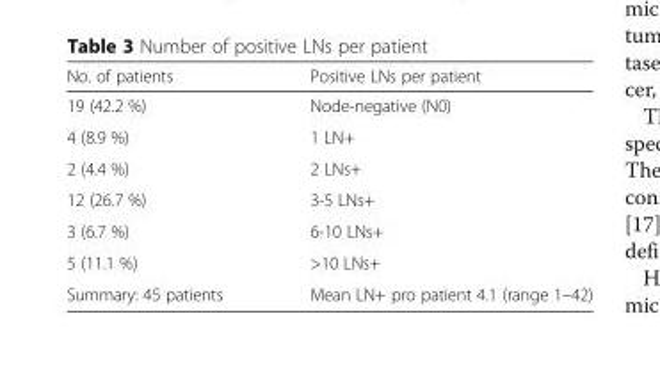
<table><thead><tr><td>No. of patients</td><td>Positive LNs per patient</td></tr></thead><tbody><tr><td>19 (42.2 %)</td><td>Node-negative (N0)</td></tr><tr><td>4 (8.9 %)</td><td>1 LN+</td></tr><tr><td>2 (4.4 %)</td><td>2 LNs+</td></tr><tr><td>12 (26.7 %)</td><td>3-5 LNs+</td></tr><tr><td>3 (6.7 %)</td><td>6-10 LNs+</td></tr><tr><td>5 (11.1 %)</td><td>&gt;10 LNs+</td></tr><tr><td>Summary: 45 patients</td><td>Mean LN+ pro patient 4.1 (range 1–42)</td></tr></tbody></table>